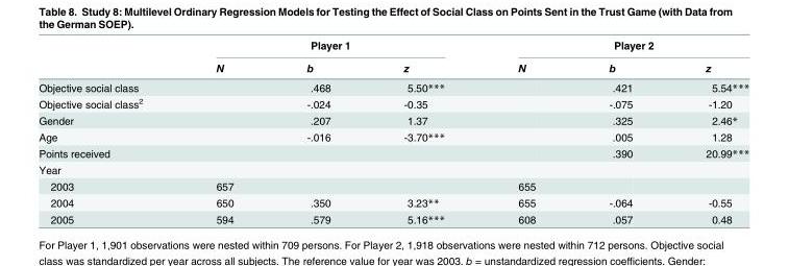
<table><thead><tr><td rowspan="2"></td><td colspan="3">Player 1</td><td colspan="3">Player 2</td></tr><tr><td>N</td><td>b</td><td>z</td><td>N</td><td>b</td><td>z</td></tr></thead><tbody><tr><td>Objective social class</td><td></td><td>.468</td><td>5.50***</td><td></td><td>.421</td><td>5.54***</td></tr><tr><td>Objective social class<sup>2</sup></td><td></td><td>-.024</td><td>-0.35</td><td></td><td>-.075</td><td>-1.20</td></tr><tr><td>Gender</td><td></td><td>.207</td><td>1.37</td><td></td><td>.325</td><td>2.46*</td></tr><tr><td>Age</td><td></td><td>-.016</td><td>-3.70***</td><td></td><td>.005</td><td>1.28</td></tr><tr><td>Points received</td><td></td><td></td><td></td><td></td><td>.390</td><td>20.99***</td></tr><tr><td colspan="7">Year</td></tr><tr><td>2003</td><td>657</td><td></td><td></td><td>655</td><td></td><td></td></tr><tr><td>2004</td><td>650</td><td>.350</td><td>3.23**</td><td>655</td><td>-.064</td><td>-0.55</td></tr><tr><td>2005</td><td>594</td><td>.579</td><td>5.16***</td><td>608</td><td>.057</td><td>0.48</td></tr></tbody></table>